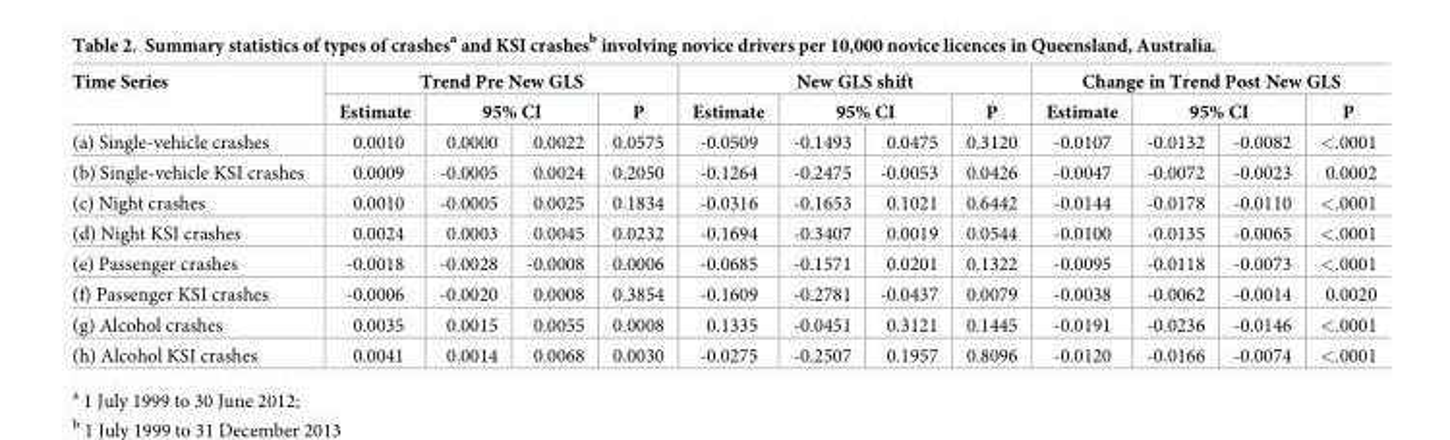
<table><thead><tr><td rowspan="3">Time Series (a) Single-vehicle crashes</td><td colspan="4">Trend Pre New GLS</td><td colspan="4">New GLS shift</td><td colspan="4">Change in Trend Post New GLS</td></tr><tr><td rowspan="2">Estimate 0.0010</td><td colspan="2">95% CI</td><td rowspan="2">P 0.0575</td><td rowspan="2">Estimate -0.0509</td><td colspan="2">95% CI</td><td rowspan="2">P 0.3120</td><td rowspan="2">Estimate -0.0107</td><td colspan="2">95% CI</td><td rowspan="2">P &lt;.0001</td></tr><tr><td>0.0000</td><td>0.0022</td><td>-0.1493</td><td>0.0475</td><td>-0.0132</td><td>-0.0082</td></tr></thead><tbody><tr><td>(b) Single-vehicle KSI crashes</td><td>0.0009</td><td>-0.0005</td><td>0.0024</td><td>0.2050</td><td>-0.1264</td><td>-0.2475</td><td>-0.0053</td><td>0.0426</td><td>-0.0047</td><td>-0.0072</td><td>-0.0023</td><td>0.0002</td></tr><tr><td>(c) Night crashes</td><td>0.0010</td><td>-0.0005</td><td>0.0025</td><td>0.1834</td><td>-0.0316</td><td>-0.1653</td><td>0.1021</td><td>0.6442</td><td>-0.0144</td><td>-0.0178</td><td>-0.0110</td><td>&lt;.0001</td></tr><tr><td>(d) Night KSI crashes</td><td>0.0024</td><td>0.0003</td><td>0.0045</td><td>0.0232</td><td>-0.1694</td><td>-0.3407</td><td>0.0019</td><td>0.0544</td><td>-0.0100</td><td>-0.0135</td><td>-0.0065</td><td>&lt;.0001</td></tr><tr><td>(e) Passenger crashes</td><td>-0.0018</td><td>-0.0028</td><td>-0.0008</td><td>0.0006</td><td>-0.0685</td><td>-0.1571</td><td>0.0201</td><td>0.1322</td><td>-0.0095</td><td>-0.0118</td><td>-0.0073</td><td>&lt;.0001</td></tr><tr><td>(f) Passenger KSI crashes</td><td>-0.0006</td><td>-0.0020</td><td>0.0008</td><td>0.3854</td><td>-0.1609</td><td>-0.2781</td><td>-0.0437</td><td>0.0079</td><td>-0.0038</td><td>-0.0062</td><td>-0.0014</td><td>0.0020</td></tr><tr><td>(g) Alcohol crashes</td><td>0.0035</td><td>0.0015</td><td>0.0055</td><td>0.0008</td><td>0.1335</td><td>-0.0451</td><td>0.3121</td><td>0.1445</td><td>-0.0191</td><td>-0.0236</td><td>-0.0146</td><td>&lt;.0001</td></tr><tr><td>(h) Alcohol KSI crashes</td><td>0.0041</td><td>0.0014</td><td>0.0068</td><td>0.0030</td><td>-0.0275</td><td>-0.2507</td><td>0.1957</td><td>0.8096</td><td>-0.0120</td><td>-0.0166</td><td>-0.0074</td><td>&lt;.0001</td></tr></tbody></table>